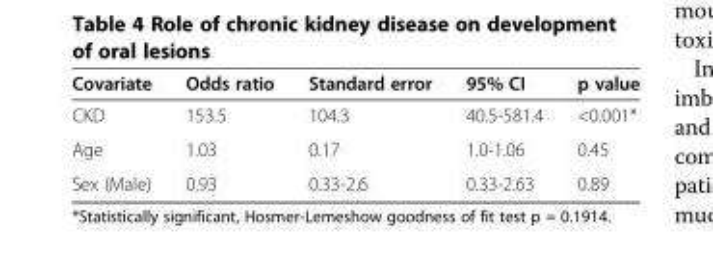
<table><thead><tr><td>Covariate</td><td>Odds ratio</td><td>Standard error</td><td>95% CI</td><td>p value</td></tr></thead><tbody><tr><td>CKD</td><td>153.5</td><td>104.3</td><td>40.5-581.4</td><td>&lt;0.001*</td></tr><tr><td>Age</td><td>1.03</td><td>0.17</td><td>1.0-1.06</td><td>0.45</td></tr><tr><td>Sex (Male)</td><td>0.93</td><td>0.33-2.6</td><td>0.33-2.63</td><td>0.89</td></tr></tbody></table>